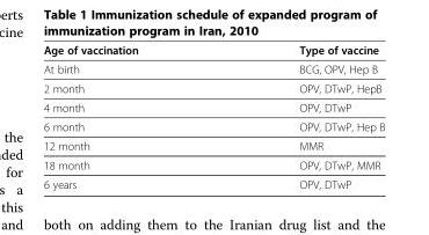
<table><thead><tr><td>Age of vaccination</td><td>Type of vaccine</td></tr></thead><tbody><tr><td>At birth</td><td>BCG, OPV, Hep B</td></tr><tr><td>2 month</td><td>OPV, DTwP, HepB</td></tr><tr><td>4 month</td><td>OPV, DTwP</td></tr><tr><td>6 month</td><td>OPV, DTwP, Hep B</td></tr><tr><td>12 month</td><td>MMR</td></tr><tr><td>18 month</td><td>OPV, DTwP, MMR</td></tr><tr><td>6 years</td><td>OPV, DTwP</td></tr></tbody></table>